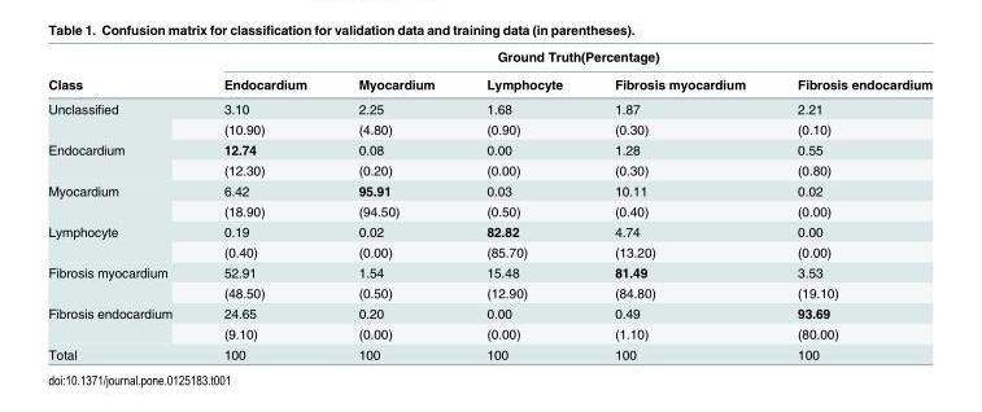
<table><thead><tr><td rowspan="2">Class</td><td colspan="5">Ground Truth(Percentage)</td></tr><tr><td>Endocardium</td><td>Myocardium</td><td>Lymphocyte</td><td>Fibrosis myocardium</td><td>Fibrosis endocardium</td></tr></thead><tbody><tr><td rowspan="2">Unclassified</td><td>3.10</td><td>2.25</td><td>1.68</td><td>1.87</td><td>2.21</td></tr><tr><td>(10.90)</td><td>(4.80)</td><td>(0.90)</td><td>(0.30)</td><td>(0.10)</td></tr><tr><td rowspan="2">Endocardium</td><td>12.74</td><td>0.08</td><td>0.00</td><td>1.28</td><td>0.55</td></tr><tr><td>(12.30)</td><td>(0.20)</td><td>(0.00)</td><td>(0.30)</td><td>(0.80)</td></tr><tr><td rowspan="2">Myocardium</td><td>6.42</td><td>95.91</td><td>0.03</td><td>10.11</td><td>0.02</td></tr><tr><td>(18.90)</td><td>(94.50)</td><td>(0.50)</td><td>(0.40)</td><td>(0.00)</td></tr><tr><td rowspan="2">Lymphocyte</td><td>0.19</td><td>0.02</td><td>82.82</td><td>4.74</td><td>0.00</td></tr><tr><td>(0.40)</td><td>(0.00)</td><td>(85.70)</td><td>(13.20)</td><td>(0.00)</td></tr><tr><td rowspan="2">Fibrosis myocardium</td><td>52.91</td><td>1.54</td><td>15.48</td><td>81.49</td><td>3.53</td></tr><tr><td>(48.50)</td><td>(0.50)</td><td>(12.90)</td><td>(84.80)</td><td>(19.10)</td></tr><tr><td rowspan="2">Fibrosis endocardium</td><td>24.65</td><td>0.20</td><td>0.00</td><td>0.49</td><td>93.69</td></tr><tr><td>(9.10)</td><td>(0.00)</td><td>(0.00)</td><td>(1.10)</td><td>(80.00)</td></tr><tr><td>Total</td><td>100</td><td>100</td><td>100</td><td>100</td><td>100</td></tr></tbody></table>